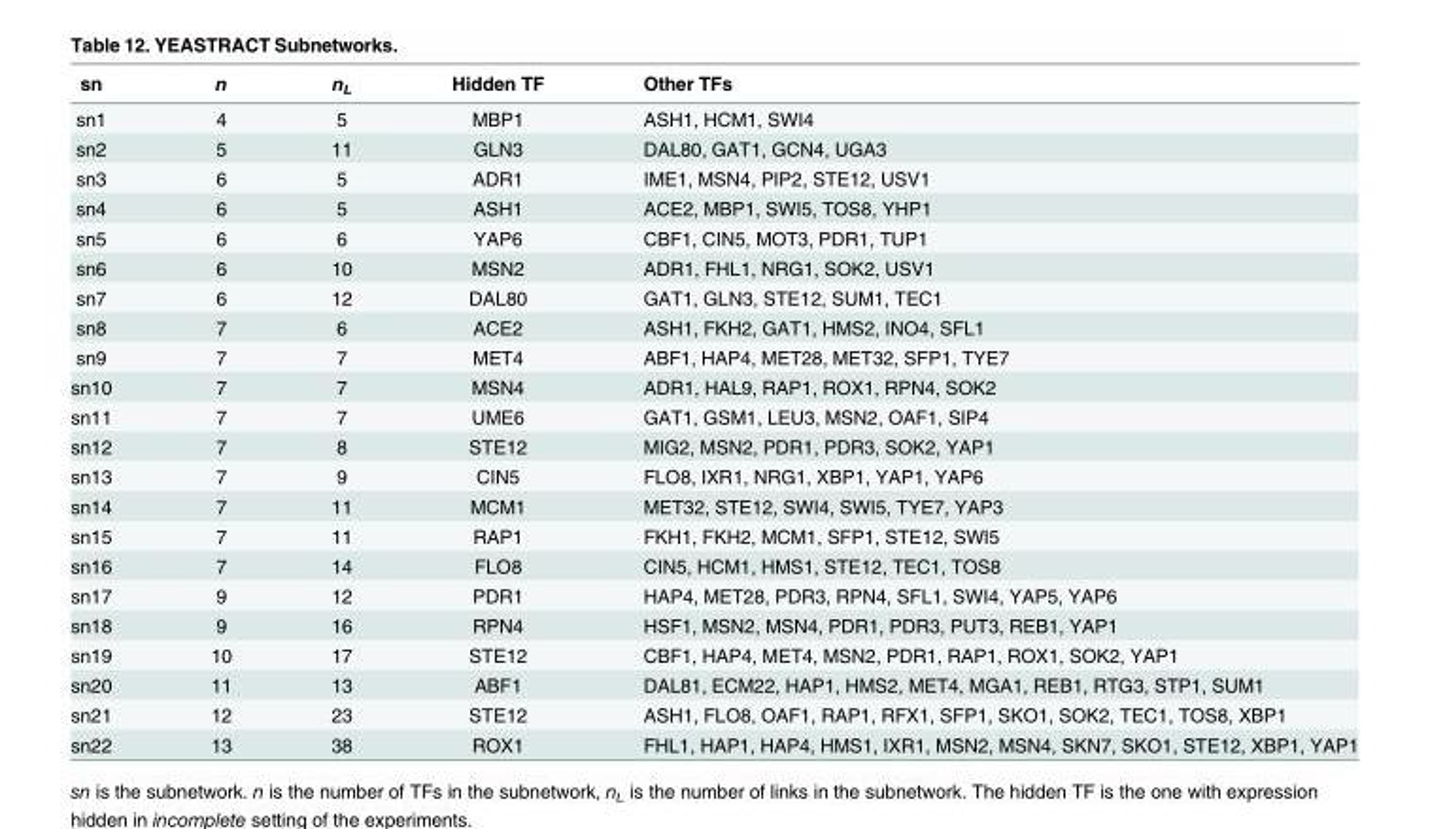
<table><thead><tr><td>sn</td><td>n</td><td>n<sub>L</sub></td><td>Hidden TF</td><td>Other TFs</td></tr></thead><tbody><tr><td>sn1</td><td>4</td><td>5</td><td>MBP1</td><td>ASH1, HCM1, SWI4</td></tr><tr><td>sn2</td><td>5</td><td>11</td><td>GLN3</td><td>DAL80, GAT1, GCN4, UGA3</td></tr><tr><td>sn3</td><td>6</td><td>5</td><td>ADR1</td><td>IME1, MSN4, PIP2, STE12, USV1</td></tr><tr><td>sn4</td><td>6</td><td>5</td><td>ASH1</td><td>ACE2, MBP1, SWI5, TOS8, YHP1</td></tr><tr><td>sn5</td><td>6</td><td>6</td><td>YAP6</td><td>CBF1, CIN5, MOT3, PDR1, TUP1</td></tr><tr><td>sn6</td><td>6</td><td>10</td><td>MSN2</td><td>ADR1, FHL1, NRG1, SOK2, USV1</td></tr><tr><td>sn7</td><td>6</td><td>12</td><td>DAL80</td><td>GAT1, GLN3, STE12, SUM1, TEC1</td></tr><tr><td>sn8</td><td>7</td><td>6</td><td>ACE2</td><td>ASH1, FKH2, GAT1, HMS2, INO4, SFL1</td></tr><tr><td>sn9</td><td>7</td><td>7</td><td>MET4</td><td>ABF1, HAP4, MET28, MET32, SFP1, TYE7</td></tr><tr><td>sn10</td><td>7</td><td>7</td><td>MSN4</td><td>ADR1, HAL9, RAP1, ROX1, RPN4, SOK2</td></tr><tr><td>sn11</td><td>7</td><td>7</td><td>UME6</td><td>GAT1, GSM1, LEU3, MSN2, OAF1, SIP4</td></tr><tr><td>sn12</td><td>7</td><td>8</td><td>STE12</td><td>MIG2, MSN2, PDR1, PDR3, SOK2, YAP1</td></tr><tr><td>sn13</td><td>7</td><td>9</td><td>CIN5</td><td>FLO8, IXR1, NRG1, XBP1, YAP1, YAP6</td></tr><tr><td>sn14</td><td>7</td><td>11</td><td>MCM1</td><td>MET32, STE12, SWI4, SWI5, TYE7, YAP3</td></tr><tr><td>sn15</td><td>7</td><td>11</td><td>RAP1</td><td>FKH1, FKH2, MCM1, SFP1, STE12, SWI5</td></tr><tr><td>sn16</td><td>7</td><td>14</td><td>FLO8</td><td>CIN5, HCM1, HMS1, STE12, TEC1, TOS8</td></tr><tr><td>sn17</td><td>9</td><td>12</td><td>PDR1</td><td>HAP4, MET28, PDR3, RPN4, SFL1, SWI4, YAP5, YAP6</td></tr><tr><td>sn18</td><td>9</td><td>16</td><td>RPN4</td><td>HSF1, MSN2, MSN4, PDR1, PDR3, PUT3, REB1, YAP1</td></tr><tr><td>sn19</td><td>10</td><td>17</td><td>STE12</td><td>CBF1, HAP4, MET4, MSN2, PDR1, RAP1, ROX1, SOK2, YAP1</td></tr><tr><td>sn20</td><td>11</td><td>13</td><td>ABF1</td><td>DAL81, ECM22, HAP1, HMS2, MET4, MGA1, REB1, RTG3, STP1, SUM1</td></tr><tr><td>sn21</td><td>12</td><td>23</td><td>STE12</td><td>ASH1, FLO8, OAF1, RAP1, RFX1, SFP1, SKO1, SOK2, TEC1, TOS8, XBP1</td></tr><tr><td>sn22</td><td>13</td><td>38</td><td>ROX1</td><td>FHL1, HAP1, HAP4, HMS1, IXR1, MSN2, MSN4, SKN7, SKO1, STE12, XBP1, YAP1</td></tr></tbody></table>